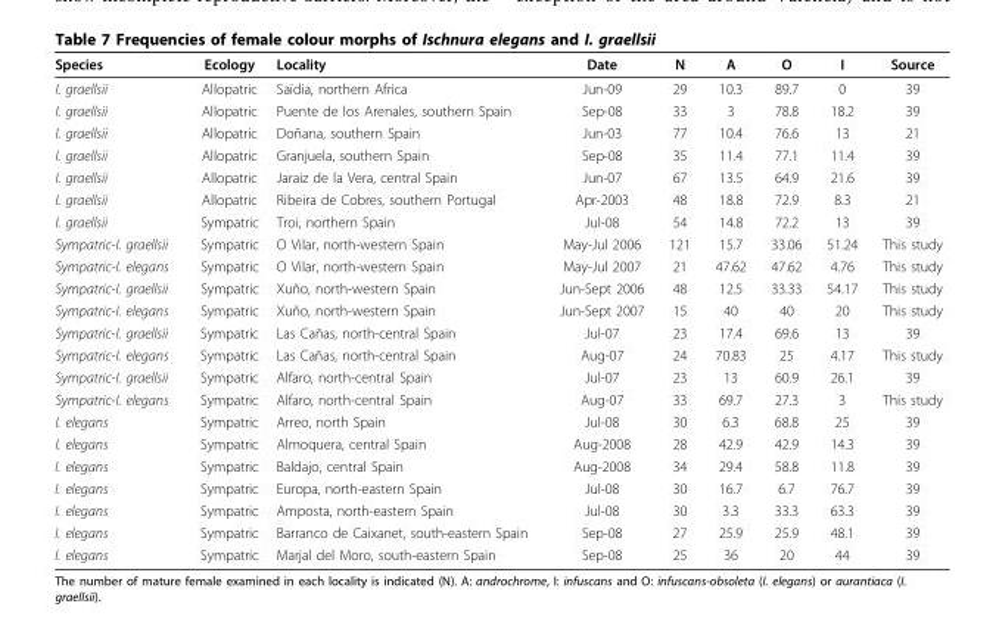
<table><thead><tr><td>Species</td><td>Ecology</td><td>Locality</td><td>Date</td><td>N</td><td>A</td><td>O</td><td>I</td><td>Source</td></tr></thead><tbody><tr><td>I. graellsii</td><td>Allopatric</td><td>Saïdia, northern Africa</td><td>Jun-09</td><td>29</td><td>10.3</td><td>89.7</td><td>0</td><td>39</td></tr><tr><td>I. graellsii</td><td>Allopatric</td><td>Puente de los Arenales, southern Spain</td><td>Sep-08</td><td>33</td><td>3</td><td>78.8</td><td>18.2</td><td>39</td></tr><tr><td>I. graellsii</td><td>Allopatric</td><td>Doñana, southern Spain</td><td>Jun-03</td><td>77</td><td>10.4</td><td>76.6</td><td>13</td><td>21</td></tr><tr><td>I. graellsii</td><td>Allopatric</td><td>Granjuela, southern Spain</td><td>Sep-08</td><td>35</td><td>11.4</td><td>77.1</td><td>11.4</td><td>39</td></tr><tr><td>I. graellsii</td><td>Allopatric</td><td>Jaraiz de la Vera, central Spain</td><td>Jun-07</td><td>67</td><td>13.5</td><td>64.9</td><td>21.6</td><td>39</td></tr><tr><td>I. graellsii</td><td>Allopatric</td><td>Ribeira de Cobres, southern Portugal</td><td>Apr-2003</td><td>48</td><td>18.8</td><td>72.9</td><td>8.3</td><td>21</td></tr><tr><td>I. graellsii</td><td>Sympatric</td><td>Troi, northern Spain</td><td>Jul-08</td><td>54</td><td>14.8</td><td>72.2</td><td>13</td><td>39</td></tr><tr><td>Sympatric-I. graellsii</td><td>Sympatric</td><td>O Vilar, north-western Spain</td><td>May-Jul 2006</td><td>121</td><td>15.7</td><td>33.06</td><td>51.24</td><td>This study</td></tr><tr><td>Sympatric-I. elegans</td><td>Sympatric</td><td>O Vilar, north-western Spain</td><td>May-Jul 2007</td><td>21</td><td>47.62</td><td>47.62</td><td>4.76</td><td>This study</td></tr><tr><td>Sympatric-I. graellsii</td><td>Sympatric</td><td>Xuño, north-western Spain</td><td>Jun-Sept 2006</td><td>48</td><td>12.5</td><td>33.33</td><td>54.17</td><td>This study</td></tr><tr><td>Sympatric-I. elegans</td><td>Sympatric</td><td>Xuño, north-western Spain</td><td>Jun-Sept 2007</td><td>15</td><td>40</td><td>40</td><td>20</td><td>This study</td></tr><tr><td>Sympatric-I. graellsii</td><td>Sympatric</td><td>Las Cañas, north-central Spain</td><td>Jul-07</td><td>23</td><td>17.4</td><td>69.6</td><td>13</td><td>39</td></tr><tr><td>Sympatric-I. elegans</td><td>Sympatric</td><td>Las Cañas, north-central Spain</td><td>Aug-07</td><td>24</td><td>70.83</td><td>25</td><td>4.17</td><td>This study</td></tr><tr><td>Sympatric-I. graellsii</td><td>Sympatric</td><td>Alfaro, north-central Spain</td><td>Jul-07</td><td>23</td><td>13</td><td>60.9</td><td>26.1</td><td>39</td></tr><tr><td>Sympatric-I. elegans</td><td>Sympatric</td><td>Alfaro, north-central Spain</td><td>Aug-07</td><td>33</td><td>69.7</td><td>27.3</td><td>3</td><td>This study</td></tr><tr><td>I. elegans</td><td>Sympatric</td><td>Arreo, north Spain</td><td>Jul-08</td><td>30</td><td>6.3</td><td>68.8</td><td>25</td><td>39</td></tr><tr><td>I. elegans</td><td>Sympatric</td><td>Almoquera, central Spain</td><td>Aug-2008</td><td>28</td><td>42.9</td><td>42.9</td><td>14.3</td><td>39</td></tr><tr><td>I. elegans</td><td>Sympatric</td><td>Baldajo, central Spain</td><td>Aug-2008</td><td>34</td><td>29.4</td><td>58.8</td><td>11.8</td><td>39</td></tr><tr><td>I. elegans</td><td>Sympatric</td><td>Europa, north-eastern Spain</td><td>Jul-08</td><td>30</td><td>16.7</td><td>6.7</td><td>76.7</td><td>39</td></tr><tr><td>I. elegans</td><td>Sympatric</td><td>Amposta, north-eastern Spain</td><td>Jul-08</td><td>30</td><td>3.3</td><td>33.3</td><td>63.3</td><td>39</td></tr><tr><td>I. elegans</td><td>Sympatric</td><td>Barranco de Caixanet, south-eastern Spain</td><td>Sep-08</td><td>27</td><td>25.9</td><td>25.9</td><td>48.1</td><td>39</td></tr><tr><td>I. elegans</td><td>Sympatric</td><td>Marjal del Moro, south-eastern Spain</td><td>Sep-08</td><td>25</td><td>36</td><td>20</td><td>44</td><td>39</td></tr></tbody></table>